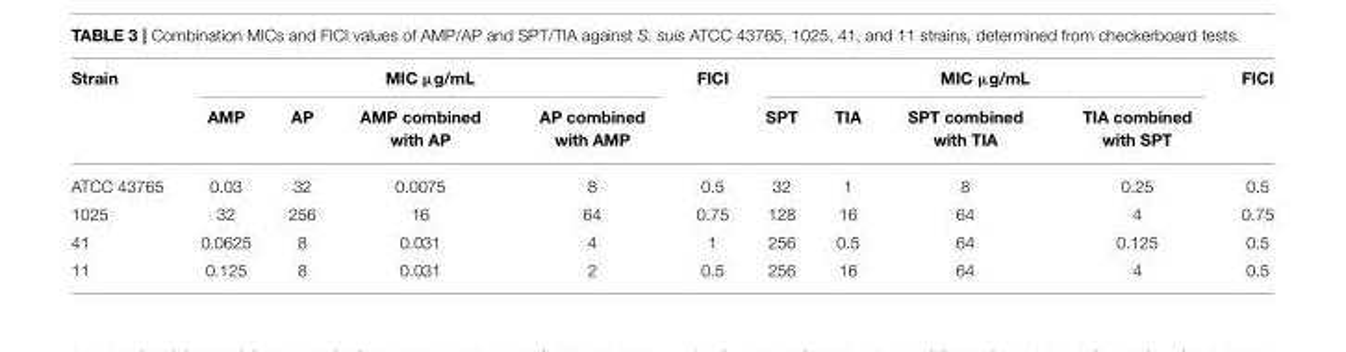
<table><thead><tr><td rowspan="2">Strain</td><td colspan="4">MIC µg/mL</td><td rowspan="2">FICI</td><td colspan="4">MIC µg/mL</td><td rowspan="2">FICI</td></tr><tr><td>AMP</td><td>AP</td><td>AMP combined with AP</td><td>AP combined with AMP</td><td>SPT</td><td>TIA</td><td>SPT combined with TIA</td><td>TIA combined with SPT</td></tr></thead><tbody><tr><td>ATCC 43765</td><td>0.03</td><td>32</td><td>0.0075</td><td>8</td><td>0.5</td><td>32</td><td>1</td><td>8</td><td>0.25</td><td>0.5</td></tr><tr><td>1025</td><td>32</td><td>256</td><td>16</td><td>64</td><td>0.75</td><td>128</td><td>16</td><td>64</td><td>4</td><td>0.75</td></tr><tr><td>41</td><td>0.0625</td><td>8</td><td>0.031</td><td>4</td><td>1</td><td>256</td><td>0.5</td><td>64</td><td>0.125</td><td>0.5</td></tr><tr><td>11</td><td>0.125</td><td>8</td><td>0.031</td><td>2</td><td>0.5</td><td>256</td><td>16</td><td>64</td><td>4</td><td>0.5</td></tr></tbody></table>